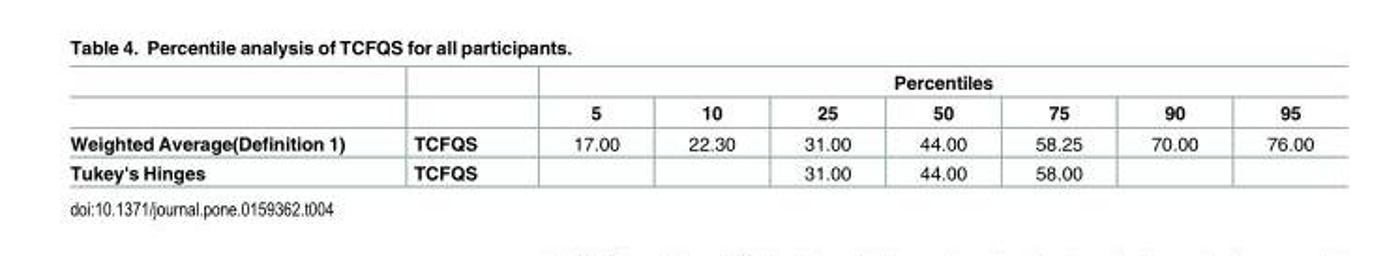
<table><thead><tr><td rowspan="2"></td><td rowspan="2"></td><td colspan="7">Percentiles</td></tr><tr><td>5</td><td>10</td><td>25</td><td>50</td><td>75</td><td>90</td><td>95</td></tr></thead><tbody><tr><td>Weighted Average(Definition 1)</td><td>TCFQS</td><td>17.00</td><td>22.30</td><td>31.00</td><td>44.00</td><td>58.25</td><td>70.00</td><td>76.00</td></tr><tr><td>Tukey&#x27;s Hinges</td><td>TCFQS</td><td></td><td></td><td>31.00</td><td>44.00</td><td>58.00</td><td></td><td></td></tr></tbody></table>